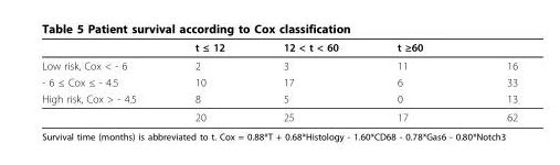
<table><thead><tr><td></td><td>t ≤ 12</td><td>12 &lt; t &lt; 60</td><td>t ≥60</td><td></td></tr></thead><tbody><tr><td>Low risk, Cox &lt; - 6</td><td>2</td><td>3</td><td>11</td><td>16</td></tr><tr><td>- 6 ≤ Cox ≤ - 4.5</td><td>10</td><td>17</td><td>6</td><td>33</td></tr><tr><td rowspan="2">High risk, Cox &gt; - 4.5</td><td>8</td><td>5</td><td>0</td><td>13</td></tr><tr><td>20</td><td>25</td><td>17</td><td>62</td></tr></tbody></table>